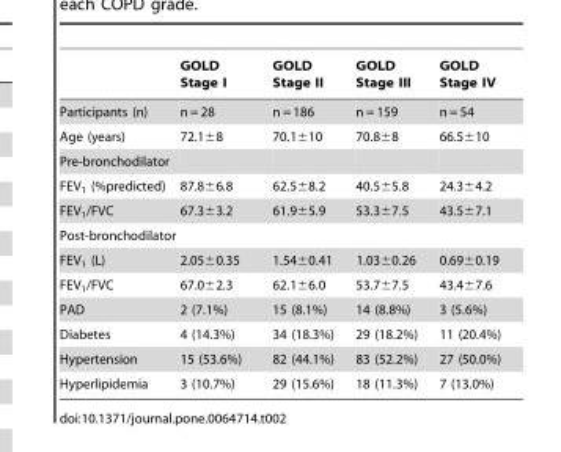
<table><thead><tr><td></td><td>GOLD Stage I</td><td>GOLD Stage II</td><td>GOLD Stage III</td><td>GOLD Stage IV</td></tr></thead><tbody><tr><td>Participants (n)</td><td>n = 28</td><td>n = 186</td><td>n = 159</td><td>n = 54</td></tr><tr><td>Age (years)</td><td>72.1±8</td><td>70.1±10</td><td>70.8±8</td><td>66.5±10</td></tr><tr><td colspan="5">Pre-bronchodilator</td></tr><tr><td>FEV<sub>1</sub> (%predicted)</td><td>87.8±6.8</td><td>62.5±8.2</td><td>40.5±5.8</td><td>24.3±4.2</td></tr><tr><td>FEV<sub>1</sub>/FVC</td><td>67.3±3.2</td><td>61.9±5.9</td><td>53.3±7.5</td><td>43.5±7.1</td></tr><tr><td colspan="5">Post-bronchodilator</td></tr><tr><td>FEV<sub>1</sub> (L)</td><td>2.05±0.35</td><td>1.54±0.41</td><td>1.03±0.26</td><td>0.69±0.19</td></tr><tr><td>FEV<sub>1</sub>/FVC</td><td>67.0±2.3</td><td>62.1±6.0</td><td>53.7±7.5</td><td>43.4±7.6</td></tr><tr><td>PAD</td><td>2 (7.1%)</td><td>15 (8.1%)</td><td>14 (8.8%)</td><td>3 (5.6%)</td></tr><tr><td>Diabetes</td><td>4 (14.3%)</td><td>34 (18.3%)</td><td>29 (18.2%)</td><td>11 (20.4%)</td></tr><tr><td>Hypertension</td><td>15 (53.6%)</td><td>82 (44.1%)</td><td>83 (52.2%)</td><td>27 (50.0%)</td></tr><tr><td>Hyperlipidemia</td><td>3 (10.7%)</td><td>29 (15.6%)</td><td>18 (11.3%)</td><td>7 (13.0%)</td></tr></tbody></table>